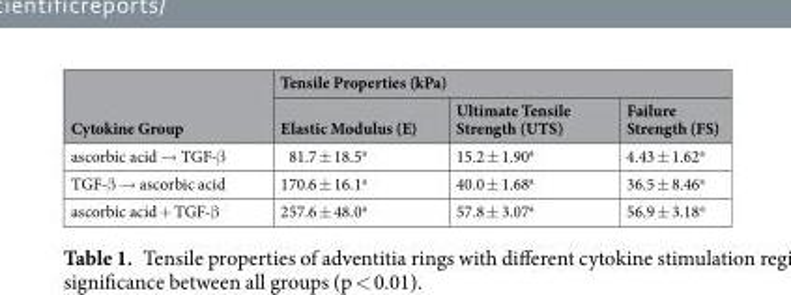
<table><thead><tr><td rowspan="2">Cytokine Group</td><td colspan="3">Tensile Properties (kPa)</td></tr><tr><td>Elastic Modulus (E)</td><td>Ultimate Tensile Strength (UTS)</td><td>Failure Strength (FS)</td></tr></thead><tbody><tr><td>ascorbic acid → TGF-β</td><td>81.7 ± 18.5<sup>a</sup></td><td>15.2 ± 1.90<sup>a</sup></td><td>4.43 ± 1.62<sup>a</sup></td></tr><tr><td>TGF-β → ascorbic acid</td><td>170.6 ± 16.1<sup>a</sup></td><td>40.0 ± 1.68<sup>a</sup></td><td>36.5 ± 8.46<sup>a</sup></td></tr><tr><td>ascorbic acid + TGF-β</td><td>257.6 ± 48.0<sup>a</sup></td><td>57.8 ± 3.07<sup>a</sup></td><td>56.9 ± 3.18<sup>a</sup></td></tr></tbody></table>